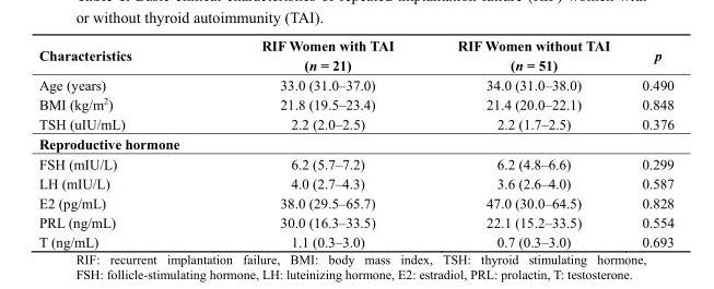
<table><thead><tr><td>Characteristics</td><td>RIF Women with TAI (n = 21)</td><td>RIF Women without TAI (n = 51)</td><td>p</td></tr></thead><tbody><tr><td>Age (years)</td><td>33.0 (31.0–37.0)</td><td>34.0 (31.0–38.0)</td><td>0.490</td></tr><tr><td>BMI (kg/m<sup>2</sup>)</td><td>21.8 (19.5–23.4)</td><td>21.4 (20.0–22.1)</td><td>0.848</td></tr><tr><td>TSH (uIU/mL)</td><td>2.2 (2.0–2.5)</td><td>2.2 (1.7–2.5)</td><td>0.376</td></tr><tr><td colspan="4">Reproductive hormone</td></tr><tr><td>FSH (mIU/L)</td><td>6.2 (5.7–7.2)</td><td>6.2 (4.8–6.6)</td><td>0.299</td></tr><tr><td>LH (mIU/L)</td><td>4.0 (2.7–4.3)</td><td>3.6 (2.6–4.0)</td><td>0.587</td></tr><tr><td>E2 (pg/mL)</td><td>38.0 (29.5–65.7)</td><td>47.0 (30.0–64.5)</td><td>0.828</td></tr><tr><td>PRL (ng/mL)</td><td>30.0 (16.3–33.5)</td><td>22.1 (15.2–33.5)</td><td>0.554</td></tr><tr><td>T (ng/mL)</td><td>1.1 (0.3–3.0)</td><td>0.7 (0.3–3.0)</td><td>0.693</td></tr></tbody></table>